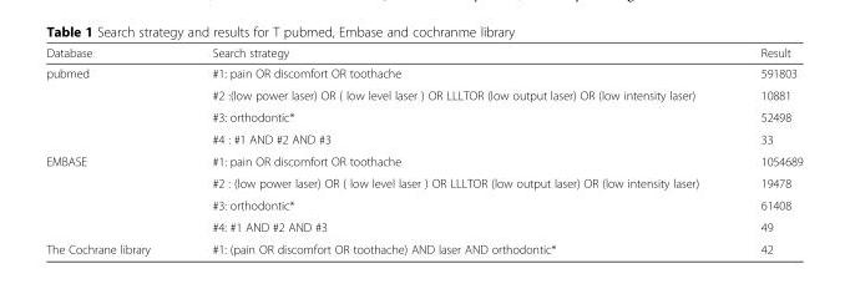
<table><thead><tr><td>Database</td><td>Search strategy</td><td>Result</td></tr></thead><tbody><tr><td rowspan="4">pubmed</td><td>#1: pain OR discomfort OR toothache</td><td>591803</td></tr><tr><td>#2 :(low power laser) OR ( low level laser ) OR LLLTOR (low output laser) OR (low intensity laser)</td><td>10881</td></tr><tr><td>#3: orthodontic*</td><td>52498</td></tr><tr><td>#4 : #1 AND #2 AND #3</td><td>33</td></tr><tr><td rowspan="4">EMBASE</td><td>#1: pain OR discomfort OR toothache</td><td>1054689</td></tr><tr><td>#2 : (low power laser) OR ( low level laser ) OR LLLTOR (low output laser) OR (low intensity laser)</td><td>19478</td></tr><tr><td>#3: orthodontic*</td><td>61408</td></tr><tr><td>#4: #1 AND #2 AND #3</td><td>49</td></tr><tr><td>The Cochrane library</td><td>#1: (pain OR discomfort OR toothache) AND laser AND orthodontic*</td><td>42</td></tr></tbody></table>